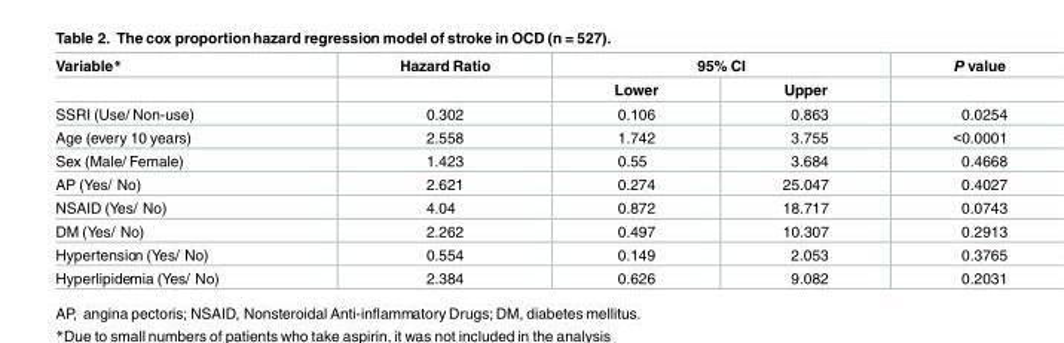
<table><thead><tr><td rowspan="2">Variable*</td><td rowspan="2">Hazard Ratio</td><td colspan="2">95% CI</td><td rowspan="2">P value</td></tr><tr><td>Lower</td><td>Upper</td></tr></thead><tbody><tr><td>SSRI (Use/ Non-use)</td><td>0.302</td><td>0.106</td><td>0.863</td><td>0.0254</td></tr><tr><td>Age (every 10 years)</td><td>2.558</td><td>1.742</td><td>3.755</td><td>&lt;0.0001</td></tr><tr><td>Sex (Male/ Female)</td><td>1.423</td><td>0.55</td><td>3.684</td><td>0.4668</td></tr><tr><td>AP (Yes/ No)</td><td>2.621</td><td>0.274</td><td>25.047</td><td>0.4027</td></tr><tr><td>NSAID (Yes/ No)</td><td>4.04</td><td>0.872</td><td>18.717</td><td>0.0743</td></tr><tr><td>DM (Yes/ No)</td><td>2.262</td><td>0.497</td><td>10.307</td><td>0.2913</td></tr><tr><td>Hypertension (Yes/ No)</td><td>0.554</td><td>0.149</td><td>2.053</td><td>0.3765</td></tr><tr><td>Hyperlipidemia (Yes/ No)</td><td>2.384</td><td>0.626</td><td>9.082</td><td>0.2031</td></tr></tbody></table>